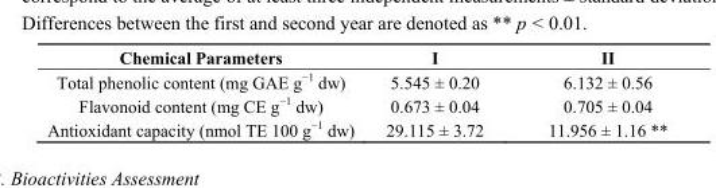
<table><thead><tr><td>Chemical Parameters</td><td>I</td><td>II</td></tr></thead><tbody><tr><td>Total phenolic content (mg GAE g<sup>−1</sup> dw)</td><td>5.545 ± 0.20</td><td>6.132 ± 0.56</td></tr><tr><td>Flavonoid content (mg CE g<sup>−1</sup> dw)</td><td>0.673 ± 0.04</td><td>0.705 ± 0.04</td></tr><tr><td>Antioxidant capacity (nmol TE 100 g<sup>−1</sup> dw)</td><td>29.115 ± 3.72</td><td>11.956 ± 1.16 **</td></tr></tbody></table>